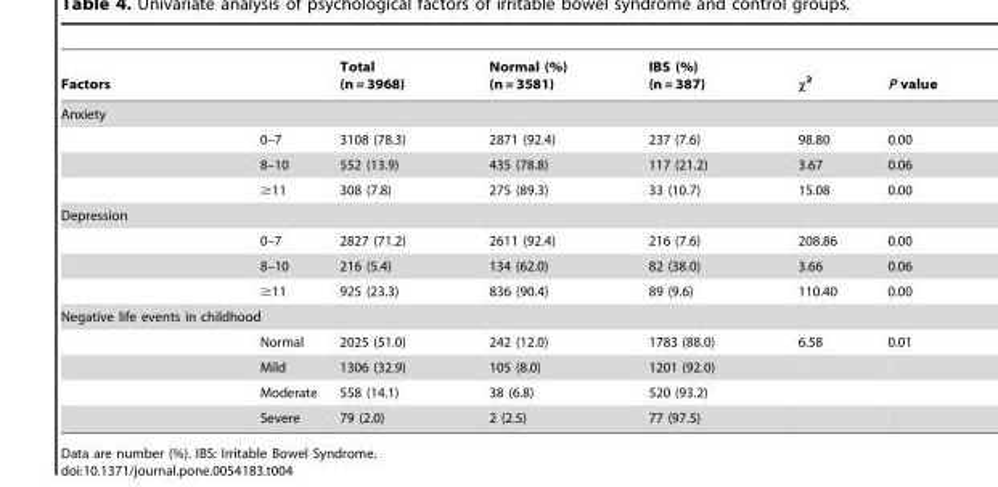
<table><thead><tr><td>Factors</td><td></td><td>Total (n = 3968)</td><td>Normal (%) (n = 3581)</td><td>IBS (%) (n = 387)</td><td>χ<sup>2</sup></td><td>P value</td></tr></thead><tbody><tr><td colspan="7">Anxiety</td></tr><tr><td></td><td>0–7</td><td>3108 (78.3)</td><td>2871 (92.4)</td><td>237 (7.6)</td><td>98.80</td><td>0.00</td></tr><tr><td></td><td>8–10</td><td>552 (13.9)</td><td>435 (78.8)</td><td>117 (21.2)</td><td>3.67</td><td>0.06</td></tr><tr><td></td><td>≥11</td><td>308 (7.8)</td><td>275 (89.3)</td><td>33 (10.7)</td><td>15.08</td><td>0.00</td></tr><tr><td colspan="7">Depression</td></tr><tr><td></td><td>0–7</td><td>2827 (71.2)</td><td>2611 (92.4)</td><td>216 (7.6)</td><td>208.86</td><td>0.00</td></tr><tr><td></td><td>8–10</td><td>216 (5.4)</td><td>134 (62.0)</td><td>82 (38.0)</td><td>3.66</td><td>0.06</td></tr><tr><td></td><td>≥11</td><td>925 (23.3)</td><td>836 (90.4)</td><td>89 (9.6)</td><td>110.40</td><td>0.00</td></tr><tr><td colspan="7">Negative life events in childhood</td></tr><tr><td></td><td>Normal</td><td>2025 (51.0)</td><td>242 (12.0)</td><td>1783 (88.0)</td><td>6.58</td><td>0.01</td></tr><tr><td></td><td>Mild</td><td>1306 (32.9)</td><td>105 (8.0)</td><td>1201 (92.0)</td><td></td><td></td></tr><tr><td></td><td>Moderate</td><td>558 (14.1)</td><td>38 (6.8)</td><td>520 (93.2)</td><td></td><td></td></tr><tr><td></td><td>Severe</td><td>79 (2.0)</td><td>2 (2.5)</td><td>77 (97.5)</td><td></td><td></td></tr></tbody></table>